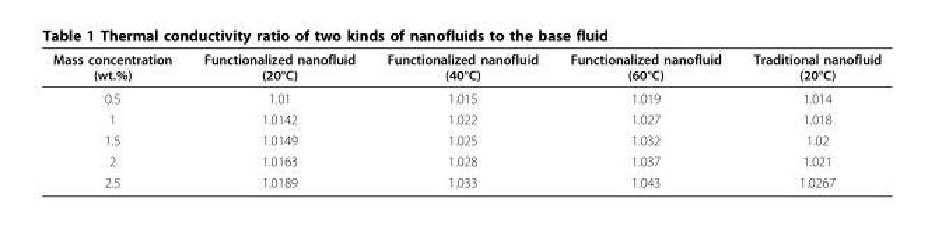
<table><thead><tr><td>Mass concentration (wt.%)</td><td>Functionalized nanofluid (20°C)</td><td>Functionalized nanofluid (40°C)</td><td>Functionalized nanofluid (60°C)</td><td>Traditional nanofluid (20°C)</td></tr></thead><tbody><tr><td>0.5</td><td>1.01</td><td>1.015</td><td>1.019</td><td>1.014</td></tr><tr><td>1</td><td>1.0142</td><td>1.022</td><td>1.027</td><td>1.018</td></tr><tr><td>1.5</td><td>1.0149</td><td>1.025</td><td>1.032</td><td>1.02</td></tr><tr><td>2</td><td>1.0163</td><td>1.028</td><td>1.037</td><td>1.021</td></tr><tr><td>2.5</td><td>1.0189</td><td>1.033</td><td>1.043</td><td>1.0267</td></tr></tbody></table>